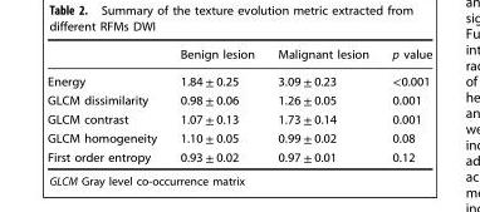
<table><thead><tr><td></td><td>Benign lesion</td><td>Malignant lesion</td><td>p value</td></tr></thead><tbody><tr><td>Energy</td><td>1.84 ± 0.25</td><td>3.09 ± 0.23</td><td>&lt;0.001</td></tr><tr><td>GLCM dissimilarity</td><td>0.98 ± 0.06</td><td>1.26 ± 0.05</td><td>0.001</td></tr><tr><td>GLCM contrast</td><td>1.07 ± 0.13</td><td>1.73 ± 0.14</td><td>0.001</td></tr><tr><td>GLCM homogeneity</td><td>1.10 ± 0.05</td><td>0.99 ± 0.02</td><td>0.08</td></tr><tr><td>First order entropy</td><td>0.93 ± 0.02</td><td>0.97 ± 0.01</td><td>0.12</td></tr></tbody></table>